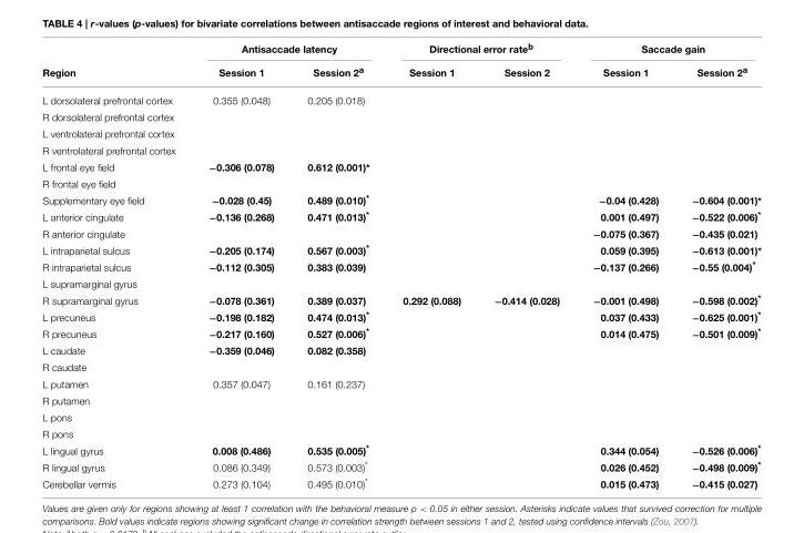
<table><thead><tr><td rowspan="2">Region</td><td colspan="2">Antisaccade latency</td><td colspan="2">Directional error rate<sup>b</sup></td><td colspan="2">Saccade gain</td></tr><tr><td>Session 1</td><td>Session 2<sup>a</sup></td><td>Session 1</td><td>Session 2</td><td>Session 1</td><td>Session 2<sup>a</sup></td></tr></thead><tbody><tr><td>L dorsolateral prefrontal cortex</td><td>0.355 (0.048)</td><td>0.205 (0.018)</td><td></td><td></td><td></td><td></td></tr><tr><td colspan="7">R dorsolateral prefrontal cortex</td></tr><tr><td colspan="7">L ventrolateral prefrontal cortex</td></tr><tr><td colspan="7">R ventrolateral prefrontal cortex</td></tr><tr><td>L frontal eye field</td><td>−0.306 (0.078)</td><td>0.612 (0.001)*</td><td></td><td></td><td></td><td></td></tr><tr><td colspan="7">R frontal eye field</td></tr><tr><td>Supplementary eye field</td><td>−0.028 (0.45)</td><td>0.489 (0.010)*</td><td></td><td></td><td>−0.04 (0.428)</td><td>−0.604 (0.001)*</td></tr><tr><td>L anterior cingulate</td><td>−0.136 (0.268)</td><td>0.471 (0.013)*</td><td></td><td></td><td>0.001 (0.497)</td><td>−0.522 (0.006)*</td></tr><tr><td>R anterior cingulate</td><td></td><td></td><td></td><td></td><td>−0.075 (0.367)</td><td>−0.435 (0.021)</td></tr><tr><td>L intraparietal sulcus</td><td>−0.205 (0.174)</td><td>0.567 (0.003)*</td><td></td><td></td><td>0.059 (0.395)</td><td>−0.613 (0.001)*</td></tr><tr><td>R intraparietal sulcus</td><td>−0.112 (0.305)</td><td>0.383 (0.039)</td><td></td><td></td><td>−0.137 (0.266)</td><td>−0.55 (0.004)*</td></tr><tr><td colspan="7">L supramarginal gyrus</td></tr><tr><td>R supramarginal gyrus</td><td>−0.078 (0.361)</td><td>0.389 (0.037)</td><td>0.292 (0.088)</td><td>−0.414 (0.028)</td><td>−0.001 (0.498)</td><td>−0.598 (0.002)*</td></tr><tr><td>L precuneus</td><td>−0.198 (0.182)</td><td>0.474 (0.013)*</td><td></td><td></td><td>0.037 (0.433)</td><td>−0.625 (0.001)*</td></tr><tr><td>R precuneus</td><td>−0.217 (0.160)</td><td>0.527 (0.006)*</td><td></td><td></td><td>0.014 (0.475)</td><td>−0.501 (0.009)*</td></tr><tr><td>L caudate</td><td>−0.359 (0.046)</td><td>0.082 (0.358)</td><td></td><td></td><td></td><td></td></tr><tr><td colspan="7">R caudate</td></tr><tr><td>L putamen</td><td>0.357 (0.047)</td><td>0.161 (0.237)</td><td></td><td></td><td></td><td></td></tr><tr><td colspan="7">R putamen</td></tr><tr><td colspan="7">L pons</td></tr><tr><td colspan="7">R pons</td></tr><tr><td>L lingual gyrus</td><td>0.008 (0.486)</td><td>0.535 (0.005)*</td><td></td><td></td><td>0.344 (0.054)</td><td>−0.526 (0.006)*</td></tr><tr><td>R lingual gyrus</td><td>0.086 (0.349)</td><td>0.573 (0.003)*</td><td></td><td></td><td>0.026 (0.452)</td><td>−0.498 (0.009)*</td></tr><tr><td>Cerebellar vermis</td><td>0.273 (0.104)</td><td>0.495 (0.010)*</td><td></td><td></td><td>0.015 (0.473)</td><td>−0.415 (0.027)</td></tr></tbody></table>